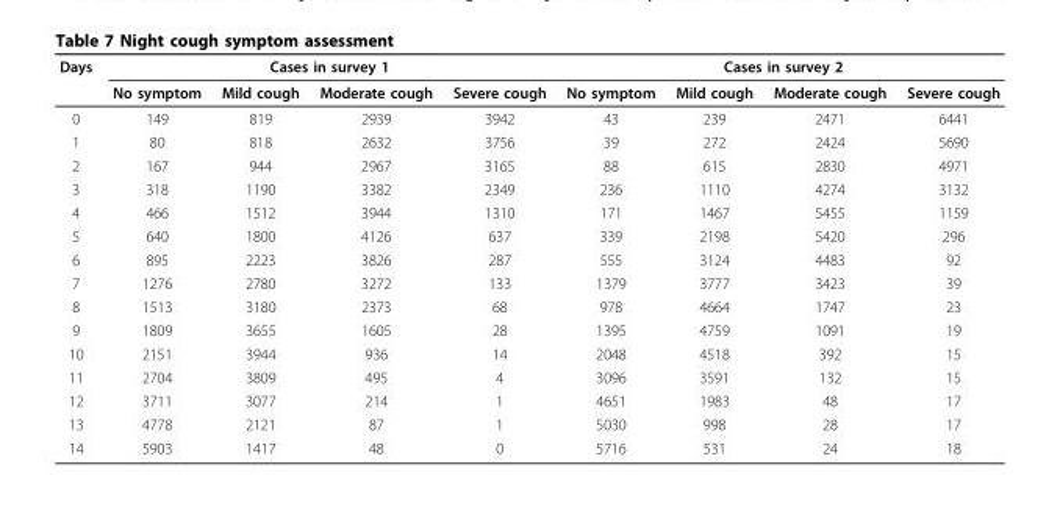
<table><thead><tr><td rowspan="2">Days</td><td colspan="4">Cases in survey 1</td><td colspan="4">Cases in survey 2</td></tr><tr><td>No symptom</td><td>Mild cough</td><td>Moderate cough</td><td>Severe cough</td><td>No symptom</td><td>Mild cough</td><td>Moderate cough</td><td>Severe cough</td></tr></thead><tbody><tr><td>0</td><td>149</td><td>819</td><td>2939</td><td>3942</td><td>43</td><td>239</td><td>2471</td><td>6441</td></tr><tr><td>1</td><td>80</td><td>818</td><td>2632</td><td>3756</td><td>39</td><td>272</td><td>2424</td><td>5690</td></tr><tr><td>2</td><td>167</td><td>944</td><td>2967</td><td>3165</td><td>88</td><td>615</td><td>2830</td><td>4971</td></tr><tr><td>3</td><td>318</td><td>1190</td><td>3382</td><td>2349</td><td>236</td><td>1110</td><td>4274</td><td>3132</td></tr><tr><td>4</td><td>466</td><td>1512</td><td>3944</td><td>1310</td><td>171</td><td>1467</td><td>5455</td><td>1159</td></tr><tr><td>5</td><td>640</td><td>1800</td><td>4126</td><td>637</td><td>339</td><td>2198</td><td>5420</td><td>296</td></tr><tr><td>6</td><td>895</td><td>2223</td><td>3826</td><td>287</td><td>555</td><td>3124</td><td>4483</td><td>92</td></tr><tr><td>7</td><td>1276</td><td>2780</td><td>3272</td><td>133</td><td>1379</td><td>3777</td><td>3423</td><td>39</td></tr><tr><td>8</td><td>1513</td><td>3180</td><td>2373</td><td>68</td><td>978</td><td>4664</td><td>1747</td><td>23</td></tr><tr><td>9</td><td>1809</td><td>3655</td><td>1605</td><td>28</td><td>1395</td><td>4759</td><td>1091</td><td>19</td></tr><tr><td>10</td><td>2151</td><td>3944</td><td>936</td><td>14</td><td>2048</td><td>4518</td><td>392</td><td>15</td></tr><tr><td>11</td><td>2704</td><td>3809</td><td>495</td><td>4</td><td>3096</td><td>3591</td><td>132</td><td>15</td></tr><tr><td>12</td><td>3711</td><td>3077</td><td>214</td><td>1</td><td>4651</td><td>1983</td><td>48</td><td>17</td></tr><tr><td>13</td><td>4778</td><td>2121</td><td>87</td><td>1</td><td>5030</td><td>998</td><td>28</td><td>17</td></tr><tr><td>14</td><td>5903</td><td>1417</td><td>48</td><td>0</td><td>5716</td><td>531</td><td>24</td><td>18</td></tr></tbody></table>